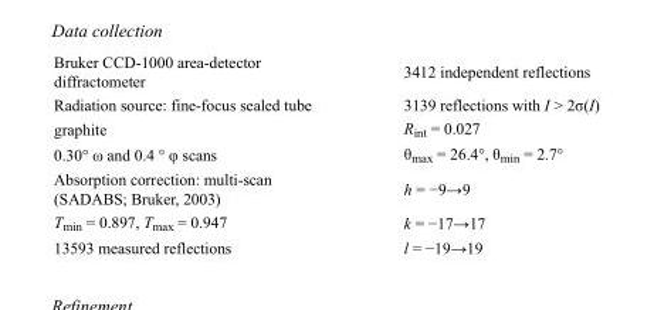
<table><tbody><tr><td>Bruker CCD-1000 area-detector diffractometer</td><td>3412 independent reflections</td></tr><tr><td>Radiation source: fine-focus sealed tube</td><td>3139 reflections with I &gt; 2σ(I)</td></tr><tr><td>graphite</td><td>R<sub>int</sub> = 0.027</td></tr><tr><td>0.30° ω and 0.4 ° φ scans</td><td>θ<sub>max</sub> = 26.4°, θ<sub>min</sub> = 2.7°</td></tr><tr><td>Absorption correction: multi-scan (SADABS; Bruker, 2003)</td><td>h = −9→9</td></tr><tr><td>T<sub>min</sub> = 0.897, T<sub>max</sub> = 0.947</td><td>k = −17→17</td></tr><tr><td>13593 measured reflections</td><td>l = −19→19</td></tr></tbody></table>